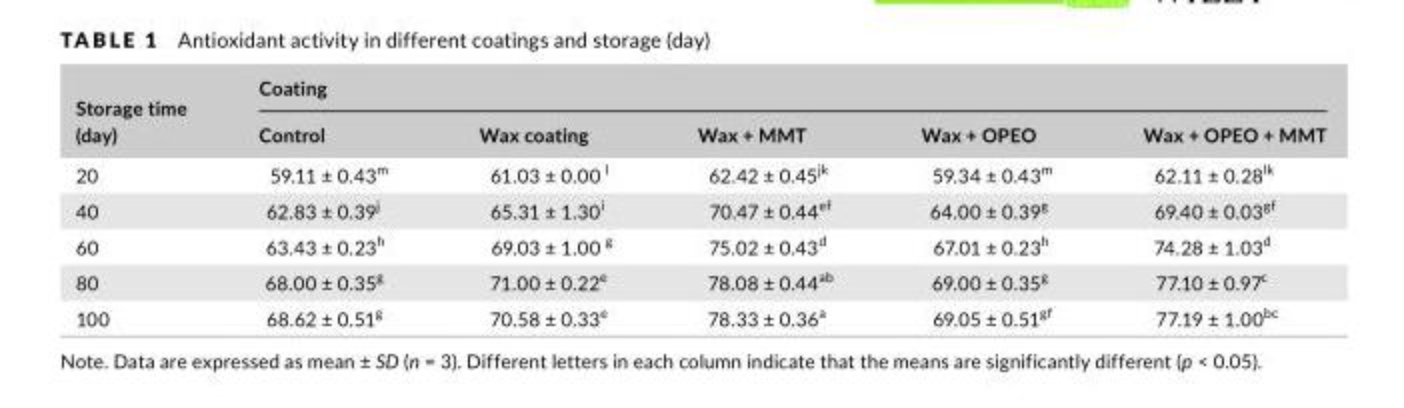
<table><thead><tr><td rowspan="2">Storage time (day)</td><td colspan="5">Coating</td></tr><tr><td>Control</td><td>Wax coating</td><td>Wax + MMT</td><td>Wax + OPEO</td><td>Wax + OPEO + MMT</td></tr></thead><tbody><tr><td>20</td><td>59.11 ± 0.43<sup>m</sup></td><td>61.03 ± 0.00 <sup>l</sup></td><td>62.42 ± 0.45<sup>jk</sup></td><td>59.34 ± 0.43<sup>m</sup></td><td>62.11 ± 0.28<sup>lk</sup></td></tr><tr><td>40</td><td>62.83 ± 0.39<sup>j</sup></td><td>65.31 ± 1.30<sup>i</sup></td><td>70.47 ± 0.44<sup>ef</sup></td><td>64.00 ± 0.39<sup>g</sup></td><td>69.40 ± 0.03<sup>gf</sup></td></tr><tr><td>60</td><td>63.43 ± 0.23<sup>h</sup></td><td>69.03 ± 1.00 <sup>g</sup></td><td>75.02 ± 0.43<sup>d</sup></td><td>67.01 ± 0.23<sup>h</sup></td><td>74.28 ± 1.03<sup>d</sup></td></tr><tr><td>80</td><td>68.00 ± 0.35<sup>g</sup></td><td>71.00 ± 0.22<sup>e</sup></td><td>78.08 ± 0.44<sup>ab</sup></td><td>69.00 ± 0.35<sup>g</sup></td><td>77.10 ± 0.97<sup>c</sup></td></tr><tr><td>100</td><td>68.62 ± 0.51<sup>g</sup></td><td>70.58 ± 0.33<sup>e</sup></td><td>78.33 ± 0.36<sup>a</sup></td><td>69.05 ± 0.51<sup>gf</sup></td><td>77.19 ± 1.00<sup>bc</sup></td></tr></tbody></table>